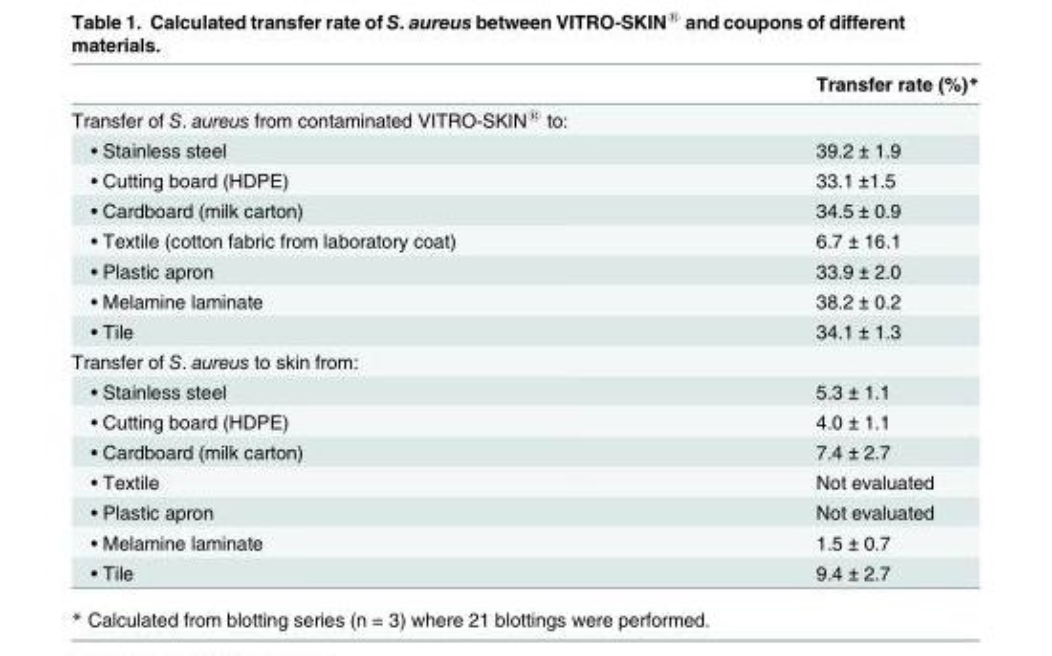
<table><thead><tr><td></td><td>Transfer rate (%)*</td></tr></thead><tbody><tr><td colspan="2">Transfer of S. aureus from contaminated VITRO-SKIN<sup>®</sup> to:</td></tr><tr><td>• Stainless steel</td><td>39.2 ± 1.9</td></tr><tr><td>• Cutting board (HDPE)</td><td>33.1 ±1.5</td></tr><tr><td>• Cardboard (milk carton)</td><td>34.5 ± 0.9</td></tr><tr><td>• Textile (cotton fabric from laboratory coat)</td><td>6.7 ± 16.1</td></tr><tr><td>• Plastic apron</td><td>33.9 ± 2.0</td></tr><tr><td>• Melamine laminate</td><td>38.2 ± 0.2</td></tr><tr><td>• Tile</td><td>34.1 ± 1.3</td></tr><tr><td colspan="2">Transfer of S. aureus to skin from:</td></tr><tr><td>• Stainless steel</td><td>5.3 ± 1.1</td></tr><tr><td>• Cutting board (HDPE)</td><td>4.0 ± 1.1</td></tr><tr><td>• Cardboard (milk carton)</td><td>7.4 ± 2.7</td></tr><tr><td>• Textile</td><td>Not evaluated</td></tr><tr><td>• Plastic apron</td><td>Not evaluated</td></tr><tr><td>• Melamine laminate</td><td>1.5 ± 0.7</td></tr><tr><td>• Tile</td><td>9.4 ± 2.7</td></tr></tbody></table>